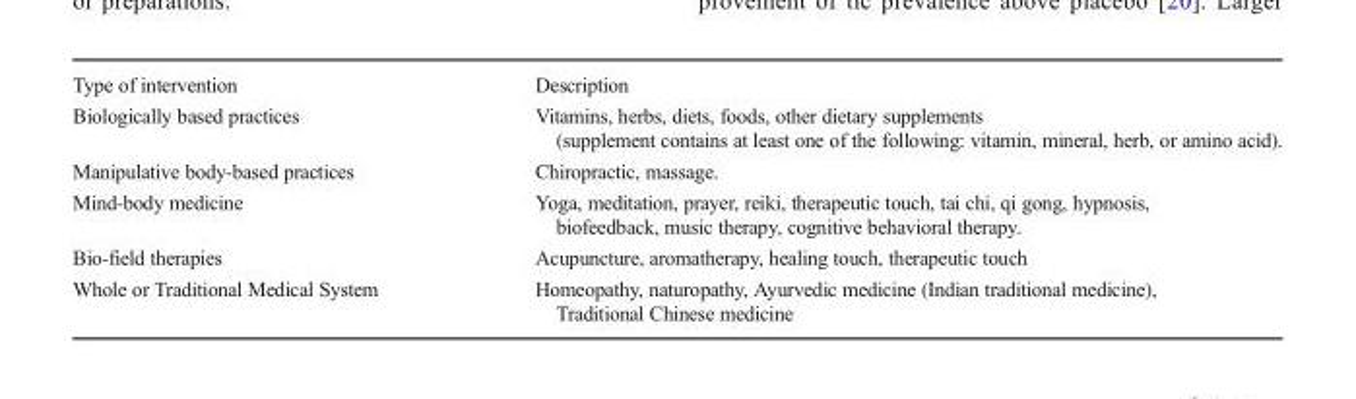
<table><tbody><tr><td>Type of intervention</td><td>Description</td></tr><tr><td>Biologically based practices</td><td>Vitamins, herbs, diets, foods, other dietary supplements (supplement contains at least one of the following: vitamin, mineral, herb, or amino acid).</td></tr><tr><td>Manipulative body-based practices</td><td>Chiropractic, massage.</td></tr><tr><td>Mind-body medicine</td><td>Yoga, meditation, prayer, reiki, therapeutic touch, tai chi, qi gong, hypnosis, biofeedback, music therapy, cognitive behavioral therapy.</td></tr><tr><td>Bio-field therapies</td><td>Acupuncture, aromatherapy, healing touch, therapeutic touch</td></tr><tr><td>Whole or Traditional Medical System</td><td>Homeopathy, naturopathy, Ayurvedic medicine (Indian traditional medicine), Traditional Chinese medicine</td></tr></tbody></table>